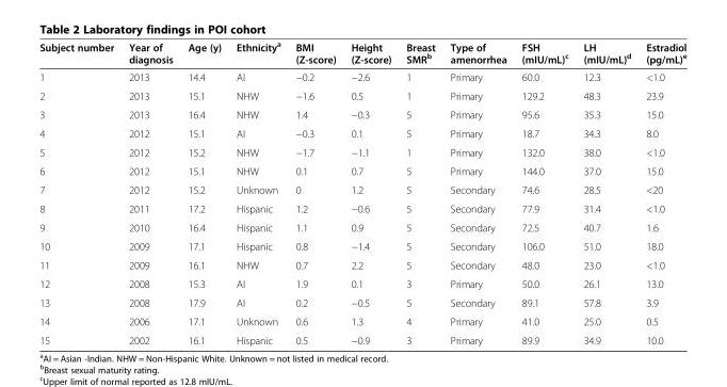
<table><thead><tr><td>Subject number</td><td>Year of diagnosis</td><td>Age (y)</td><td>Ethnicity<sup>a</sup></td><td>BMI (Z-score)</td><td>Height (Z-score)</td><td>Breast SMR<sup>b</sup></td><td>Type of amenorrhea</td><td>FSH (mIU/mL)<sup>c</sup></td><td>LH (mIU/mL)<sup>d</sup></td><td>Estradiol (pg/mL)<sup>e</sup></td></tr></thead><tbody><tr><td>1</td><td>2013</td><td>14.4</td><td>AI</td><td>−0.2</td><td>−2.6</td><td>1</td><td>Primary</td><td>60.0</td><td>12.3</td><td>&lt;1.0</td></tr><tr><td>2</td><td>2013</td><td>15.1</td><td>NHW</td><td>−1.6</td><td>0.5</td><td>1</td><td>Primary</td><td>129.2</td><td>48.3</td><td>23.9</td></tr><tr><td>3</td><td>2013</td><td>16.4</td><td>NHW</td><td>1.4</td><td>−0.3</td><td>5</td><td>Primary</td><td>95.6</td><td>35.3</td><td>15.0</td></tr><tr><td>4</td><td>2012</td><td>15.1</td><td>AI</td><td>−0.3</td><td>0.1</td><td>5</td><td>Primary</td><td>18.7</td><td>34.3</td><td>8.0</td></tr><tr><td>5</td><td>2012</td><td>15.2</td><td>NHW</td><td>−1.7</td><td>−1.1</td><td>1</td><td>Primary</td><td>132.0</td><td>38.0</td><td>&lt;1.0</td></tr><tr><td>6</td><td>2012</td><td>15.1</td><td>NHW</td><td>0.1</td><td>0.7</td><td>5</td><td>Primary</td><td>144.0</td><td>37.0</td><td>15.0</td></tr><tr><td>7</td><td>2012</td><td>15.2</td><td>Unknown</td><td>0</td><td>1.2</td><td>5</td><td>Secondary</td><td>74.6</td><td>28.5</td><td>&lt;20</td></tr><tr><td>8</td><td>2011</td><td>17.2</td><td>Hispanic</td><td>1.2</td><td>−0.6</td><td>5</td><td>Secondary</td><td>77.9</td><td>31.4</td><td>&lt;1.0</td></tr><tr><td>9</td><td>2010</td><td>16.4</td><td>Hispanic</td><td>1.1</td><td>0.9</td><td>5</td><td>Secondary</td><td>72.5</td><td>40.7</td><td>1.6</td></tr><tr><td>10</td><td>2009</td><td>17.1</td><td>Hispanic</td><td>0.8</td><td>−1.4</td><td>5</td><td>Secondary</td><td>106.0</td><td>51.0</td><td>18.0</td></tr><tr><td>11</td><td>2009</td><td>16.1</td><td>NHW</td><td>0.7</td><td>2.2</td><td>5</td><td>Secondary</td><td>48.0</td><td>23.0</td><td>&lt;1.0</td></tr><tr><td>12</td><td>2008</td><td>15.3</td><td>AI</td><td>1.9</td><td>0.1</td><td>3</td><td>Primary</td><td>50.0</td><td>26.1</td><td>13.0</td></tr><tr><td>13</td><td>2008</td><td>17.9</td><td>AI</td><td>0.2</td><td>−0.5</td><td>5</td><td>Secondary</td><td>89.1</td><td>57.8</td><td>3.9</td></tr><tr><td>14</td><td>2006</td><td>17.1</td><td>Unknown</td><td>0.6</td><td>1.3</td><td>4</td><td>Primary</td><td>41.0</td><td>25.0</td><td>0.5</td></tr><tr><td>15</td><td>2002</td><td>16.1</td><td>Hispanic</td><td>0.5</td><td>−0.9</td><td>3</td><td>Primary</td><td>89.9</td><td>34.9</td><td>10.0</td></tr></tbody></table>